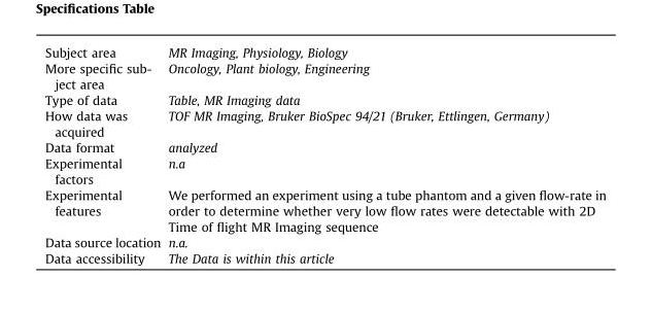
<table><tbody><tr><td>Subject area</td><td>MR Imaging, Physiology, Biology</td></tr><tr><td>More specific sub- ject area</td><td>Oncology, Plant biology, Engineering</td></tr><tr><td>Type of data</td><td>Table, MR Imaging data</td></tr><tr><td>How data was acquired</td><td>TOF MR Imaging, Bruker BioSpec 94/21 (Bruker, Ettlingen, Germany)</td></tr><tr><td>Data format</td><td>analyzed</td></tr><tr><td>Experimental factors</td><td>n.a</td></tr><tr><td>Experimental features</td><td>We performed an experiment using a tube phantom and a given flow-rate in order to determine whether very low flow rates were detectable with 2D Time of flight MR Imaging sequence</td></tr><tr><td>Data source location</td><td>n.a.</td></tr><tr><td>Data accessibility</td><td>The Data is within this article</td></tr></tbody></table>